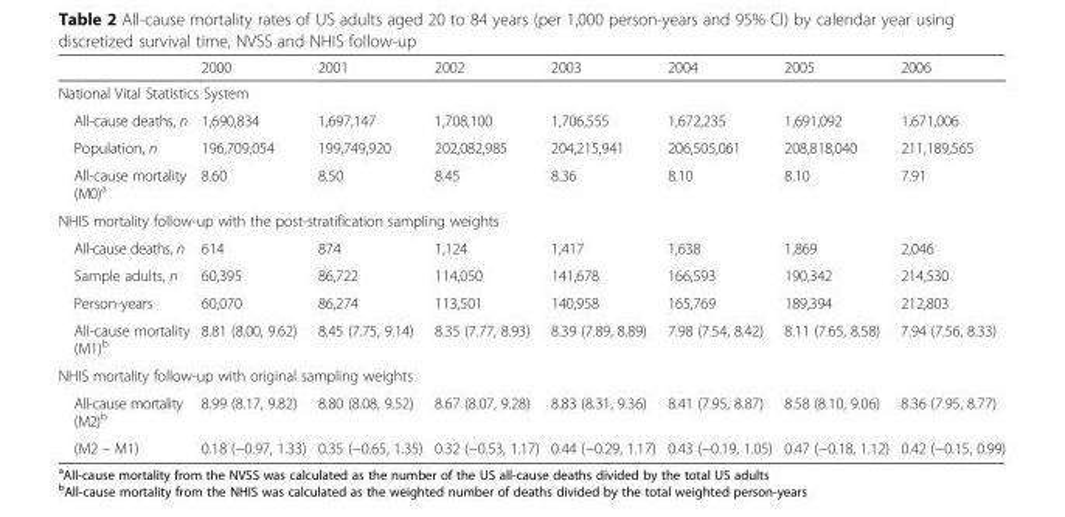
<table><thead><tr><td></td><td>2000</td><td>2001</td><td>2002</td><td>2003</td><td>2004</td><td>2005</td><td>2006</td></tr></thead><tbody><tr><td colspan="8">National Vital Statistics System</td></tr><tr><td>All-cause deaths, n</td><td>1,690,834</td><td>1,697,147</td><td>1,708,100</td><td>1,706,555</td><td>1,672,235</td><td>1,691,092</td><td>1,671,006</td></tr><tr><td>Population, n</td><td>196,709,054</td><td>199,749,920</td><td>202,082,985</td><td>204,215,941</td><td>206,505,061</td><td>208,818,040</td><td>211,189,565</td></tr><tr><td>All-cause mortality (M0)<sup>a</sup></td><td>8.60</td><td>8.50</td><td>8.45</td><td>8.36</td><td>8.10</td><td>8.10</td><td>7.91</td></tr><tr><td colspan="8">NHIS mortality follow-up with the post-stratification sampling weights</td></tr><tr><td>All-cause deaths, n</td><td>614</td><td>874</td><td>1,124</td><td>1,417</td><td>1,638</td><td>1,869</td><td>2,046</td></tr><tr><td>Sample adults, n</td><td>60,395</td><td>86,722</td><td>114,050</td><td>141,678</td><td>166,593</td><td>190,342</td><td>214,530</td></tr><tr><td>Person-years</td><td>60,070</td><td>86,274</td><td>113,501</td><td>140,958</td><td>165,769</td><td>189,394</td><td>212,803</td></tr><tr><td>All-cause mortality (M1)<sup>b</sup></td><td>8.81 (8.00, 9.62)</td><td>8.45 (7.75, 9.14)</td><td>8.35 (7.77, 8.93)</td><td>8.39 (7.89, 8.89)</td><td>7.98 (7.54, 8.42)</td><td>8.11 (7.65, 8.58)</td><td>7.94 (7.56, 8.33)</td></tr><tr><td colspan="8">NHIS mortality follow-up with original sampling weights</td></tr><tr><td>All-cause mortality (M2)<sup>b</sup></td><td>8.99 (8.17, 9.82)</td><td>8.80 (8.08, 9.52)</td><td>8.67 (8.07, 9.28)</td><td>8.83 (8.31, 9.36)</td><td>8.41 (7.95, 8.87)</td><td>8.58 (8.10, 9.06)</td><td>8.36 (7.95, 8.77)</td></tr><tr><td>(M2 – M1)</td><td>0.18 (−0.97, 1.33)</td><td>0.35 (−0.65, 1.35)</td><td>0.32 (−0.53, 1.17)</td><td>0.44 (−0.29, 1.17)</td><td>0.43 (−0.19, 1.05)</td><td>0.47 (−0.18, 1.12)</td><td>0.42 (−0.15, 0.99)</td></tr></tbody></table>